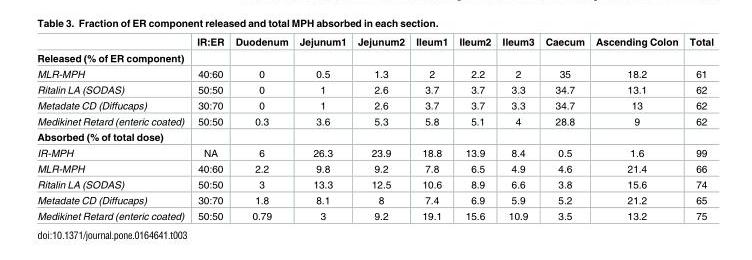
<table><thead><tr><td></td><td>IR:ER</td><td>Duodenum</td><td>Jejunum1</td><td>Jejunum2</td><td>Ileum1</td><td>Ileum2</td><td>Ileum3</td><td>Caecum</td><td>Ascending Colon</td><td>Total</td></tr></thead><tbody><tr><td colspan="11">Released (% of ER component)</td></tr><tr><td>MLR-MPH</td><td>40:60</td><td>0</td><td>0.5</td><td>1.3</td><td>2</td><td>2.2</td><td>2</td><td>35</td><td>18.2</td><td>61</td></tr><tr><td>Ritalin LA (SODAS)</td><td>50:50</td><td>0</td><td>1</td><td>2.6</td><td>3.7</td><td>3.7</td><td>3.3</td><td>34.7</td><td>13.1</td><td>62</td></tr><tr><td>Metadate CD (Diffucaps)</td><td>30:70</td><td>0</td><td>1</td><td>2.6</td><td>3.7</td><td>3.7</td><td>3.3</td><td>34.7</td><td>13</td><td>62</td></tr><tr><td>Medikinet Retard (enteric coated)</td><td>50:50</td><td>0.3</td><td>3.6</td><td>5.3</td><td>5.8</td><td>5.1</td><td>4</td><td>28.8</td><td>9</td><td>62</td></tr><tr><td colspan="11">Absorbed (% of total dose)</td></tr><tr><td>IR-MPH</td><td>NA</td><td>6</td><td>26.3</td><td>23.9</td><td>18.8</td><td>13.9</td><td>8.4</td><td>0.5</td><td>1.6</td><td>99</td></tr><tr><td>MLR-MPH</td><td>40:60</td><td>2.2</td><td>9.8</td><td>9.2</td><td>7.8</td><td>6.5</td><td>4.9</td><td>4.6</td><td>21.4</td><td>66</td></tr><tr><td>Ritalin LA (SODAS)</td><td>50:50</td><td>3</td><td>13.3</td><td>12.5</td><td>10.6</td><td>8.9</td><td>6.6</td><td>3.8</td><td>15.6</td><td>74</td></tr><tr><td>Metadate CD (Diffucaps)</td><td>30:70</td><td>1.8</td><td>8.1</td><td>8</td><td>7.4</td><td>6.9</td><td>5.9</td><td>5.2</td><td>21.2</td><td>65</td></tr><tr><td>Medikinet Retard (enteric coated)</td><td>50:50</td><td>0.79</td><td>3</td><td>9.2</td><td>19.1</td><td>15.6</td><td>10.9</td><td>3.5</td><td>13.2</td><td>75</td></tr></tbody></table>